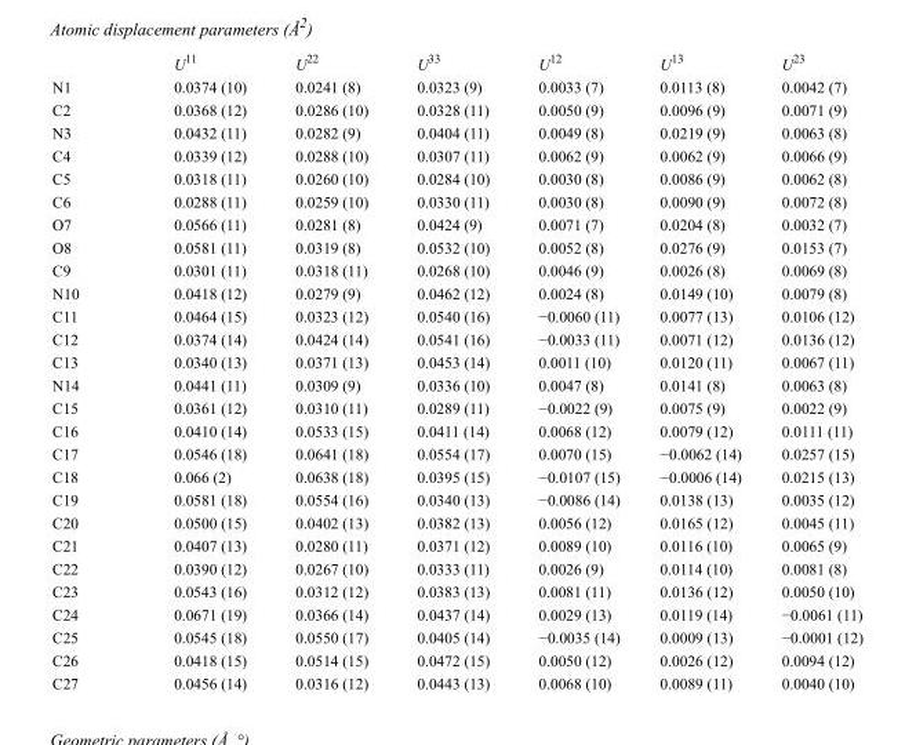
<table><thead><tr><td></td><td>U<sup>11</sup></td><td>U<sup>22</sup></td><td>U<sup>33</sup></td><td>U<sup>12</sup></td><td>U<sup>13</sup></td><td>U<sup>23</sup></td></tr></thead><tbody><tr><td>N1</td><td>0.0374 (10)</td><td>0.0241 (8)</td><td>0.0323 (9)</td><td>0.0033 (7)</td><td>0.0113 (8)</td><td>0.0042 (7)</td></tr><tr><td>C2</td><td>0.0368 (12)</td><td>0.0286 (10)</td><td>0.0328 (11)</td><td>0.0050 (9)</td><td>0.0096 (9)</td><td>0.0071 (9)</td></tr><tr><td>N3</td><td>0.0432 (11)</td><td>0.0282 (9)</td><td>0.0404 (11)</td><td>0.0049 (8)</td><td>0.0219 (9)</td><td>0.0063 (8)</td></tr><tr><td>C4</td><td>0.0339 (12)</td><td>0.0288 (10)</td><td>0.0307 (11)</td><td>0.0062 (9)</td><td>0.0062 (9)</td><td>0.0066 (9)</td></tr><tr><td>C5</td><td>0.0318 (11)</td><td>0.0260 (10)</td><td>0.0284 (10)</td><td>0.0030 (8)</td><td>0.0086 (9)</td><td>0.0062 (8)</td></tr><tr><td>C6</td><td>0.0288 (11)</td><td>0.0259 (10)</td><td>0.0330 (11)</td><td>0.0030 (8)</td><td>0.0090 (9)</td><td>0.0072 (8)</td></tr><tr><td>O7</td><td>0.0566 (11)</td><td>0.0281 (8)</td><td>0.0424 (9)</td><td>0.0071 (7)</td><td>0.0204 (8)</td><td>0.0032 (7)</td></tr><tr><td>O8</td><td>0.0581 (11)</td><td>0.0319 (8)</td><td>0.0532 (10)</td><td>0.0052 (8)</td><td>0.0276 (9)</td><td>0.0153 (7)</td></tr><tr><td>C9</td><td>0.0301 (11)</td><td>0.0318 (11)</td><td>0.0268 (10)</td><td>0.0046 (9)</td><td>0.0026 (8)</td><td>0.0069 (8)</td></tr><tr><td>N10</td><td>0.0418 (12)</td><td>0.0279 (9)</td><td>0.0462 (12)</td><td>0.0024 (8)</td><td>0.0149 (10)</td><td>0.0079 (8)</td></tr><tr><td>C11</td><td>0.0464 (15)</td><td>0.0323 (12)</td><td>0.0540 (16)</td><td>−0.0060 (11)</td><td>0.0077 (13)</td><td>0.0106 (12)</td></tr><tr><td>C12</td><td>0.0374 (14)</td><td>0.0424 (14)</td><td>0.0541 (16)</td><td>−0.0033 (11)</td><td>0.0071 (12)</td><td>0.0136 (12)</td></tr><tr><td>C13</td><td>0.0340 (13)</td><td>0.0371 (13)</td><td>0.0453 (14)</td><td>0.0011 (10)</td><td>0.0120 (11)</td><td>0.0067 (11)</td></tr><tr><td>N14</td><td>0.0441 (11)</td><td>0.0309 (9)</td><td>0.0336 (10)</td><td>0.0047 (8)</td><td>0.0141 (8)</td><td>0.0063 (8)</td></tr><tr><td>C15</td><td>0.0361 (12)</td><td>0.0310 (11)</td><td>0.0289 (11)</td><td>−0.0022 (9)</td><td>0.0075 (9)</td><td>0.0022 (9)</td></tr><tr><td>C16</td><td>0.0410 (14)</td><td>0.0533 (15)</td><td>0.0411 (14)</td><td>0.0068 (12)</td><td>0.0079 (12)</td><td>0.0111 (11)</td></tr><tr><td>C17</td><td>0.0546 (18)</td><td>0.0641 (18)</td><td>0.0554 (17)</td><td>0.0070 (15)</td><td>−0.0062 (14)</td><td>0.0257 (15)</td></tr><tr><td>C18</td><td>0.066 (2)</td><td>0.0638 (18)</td><td>0.0395 (15)</td><td>−0.0107 (15)</td><td>−0.0006 (14)</td><td>0.0215 (13)</td></tr><tr><td>C19</td><td>0.0581 (18)</td><td>0.0554 (16)</td><td>0.0340 (13)</td><td>−0.0086 (14)</td><td>0.0138 (13)</td><td>0.0035 (12)</td></tr><tr><td>C20</td><td>0.0500 (15)</td><td>0.0402 (13)</td><td>0.0382 (13)</td><td>0.0056 (12)</td><td>0.0165 (12)</td><td>0.0045 (11)</td></tr><tr><td>C21</td><td>0.0407 (13)</td><td>0.0280 (11)</td><td>0.0371 (12)</td><td>0.0089 (10)</td><td>0.0116 (10)</td><td>0.0065 (9)</td></tr><tr><td>C22</td><td>0.0390 (12)</td><td>0.0267 (10)</td><td>0.0333 (11)</td><td>0.0026 (9)</td><td>0.0114 (10)</td><td>0.0081 (8)</td></tr><tr><td>C23</td><td>0.0543 (16)</td><td>0.0312 (12)</td><td>0.0383 (13)</td><td>0.0081 (11)</td><td>0.0136 (12)</td><td>0.0050 (10)</td></tr><tr><td>C24</td><td>0.0671 (19)</td><td>0.0366 (14)</td><td>0.0437 (14)</td><td>0.0029 (13)</td><td>0.0119 (14)</td><td>−0.0061 (11)</td></tr><tr><td>C25</td><td>0.0545 (18)</td><td>0.0550 (17)</td><td>0.0405 (14)</td><td>−0.0035 (14)</td><td>0.0009 (13)</td><td>−0.0001 (12)</td></tr><tr><td>C26</td><td>0.0418 (15)</td><td>0.0514 (15)</td><td>0.0472 (15)</td><td>0.0050 (12)</td><td>0.0026 (12)</td><td>0.0094 (12)</td></tr><tr><td>C27</td><td>0.0456 (14)</td><td>0.0316 (12)</td><td>0.0443 (13)</td><td>0.0068 (10)</td><td>0.0089 (11)</td><td>0.0040 (10)</td></tr></tbody></table>